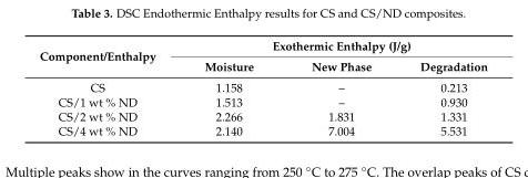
<table><thead><tr><td rowspan="2">Component/Enthalpy</td><td colspan="3">Exothermic Enthalpy (J/g)</td></tr><tr><td>Moisture</td><td>New Phase</td><td>Degradation</td></tr></thead><tbody><tr><td>CS</td><td>1.158</td><td>–</td><td>0.213</td></tr><tr><td>CS/1 wt % ND</td><td>1.513</td><td>–</td><td>0.930</td></tr><tr><td>CS/2 wt % ND</td><td>2.266</td><td>1.831</td><td>1.331</td></tr><tr><td>CS/4 wt % ND</td><td>2.140</td><td>7.004</td><td>5.531</td></tr></tbody></table>